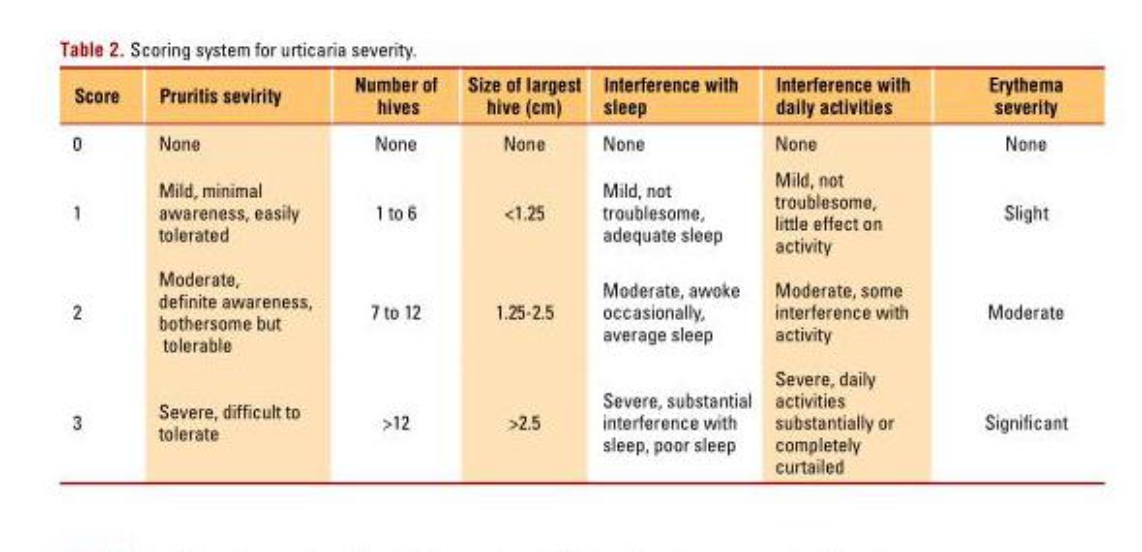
<table><thead><tr><td>Score</td><td>Pruritis sevirity</td><td>Number of hives</td><td>Size of largest hive (cm)</td><td>Interference with sleep</td><td>Interference with daily activities</td><td>Erythema severity</td></tr></thead><tbody><tr><td>0</td><td>None</td><td>None</td><td>None</td><td>None</td><td>None</td><td>None</td></tr><tr><td>1</td><td>Mild, minimal awareness, easily tolerated</td><td>1 to 6</td><td>&lt;1.25</td><td>Mild, not troublesome, adequate sleep</td><td>Mild, not troublesome, little effect on activity</td><td>Slight</td></tr><tr><td>2</td><td>Moderate, definite awareness, bothersome but tolerable</td><td>7 to 12</td><td>1.25-2.5</td><td>Moderate, awoke occasionally, average sleep</td><td>Moderate, some interference with activity</td><td>Moderate</td></tr><tr><td>3</td><td>Severe, difficult to tolerate</td><td>&gt;12</td><td>&gt;2.5</td><td>Severe, substantial interference with sleep, poor sleep</td><td>Severe, daily activities substantially or completely curtailed</td><td>Significant</td></tr></tbody></table>